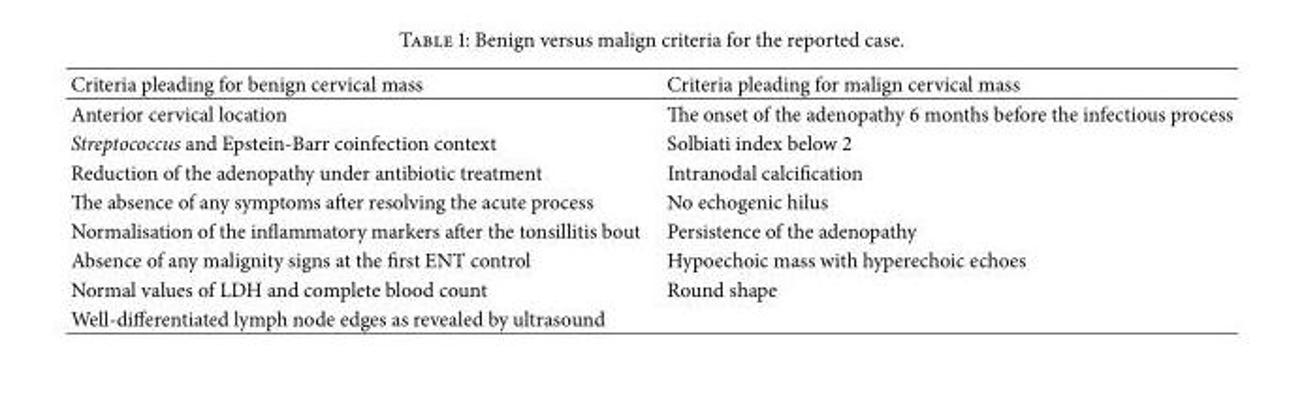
<table><thead><tr><td>Criteria pleading for benign cervical mass</td><td>Criteria pleading for malign cervical mass</td></tr></thead><tbody><tr><td>Anterior cervical location</td><td>The onset of the adenopathy 6 months before the infectious process</td></tr><tr><td>Streptococcus and Epstein-Barr coinfection context</td><td>Solbiati index below 2</td></tr><tr><td>Reduction of the adenopathy under antibiotic treatment</td><td>Intranodal calcification</td></tr><tr><td>The absence of any symptoms after resolving the acute process</td><td>No echogenic hilus</td></tr><tr><td>Normalisation of the inflammatory markers after the tonsillitis bout</td><td>Persistence of the adenopathy</td></tr><tr><td>Absence of any malignity signs at the first ENT control</td><td>Hypoechoic mass with hyperechoic echoes</td></tr><tr><td>Normal values of LDH and complete blood count</td><td>Round shape</td></tr><tr><td>Well-differentiated lymph node edges as revealed by ultrasound</td><td></td></tr></tbody></table>